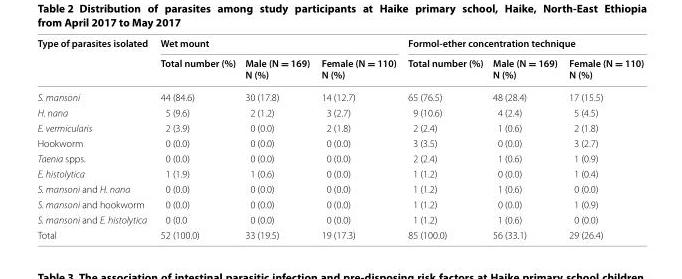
<table><thead><tr><td rowspan="2">Type of parasites isolated</td><td colspan="3">Wet mount</td><td colspan="3">Formol-ether concentration technique</td></tr><tr><td>Total number (%)</td><td>Male (N = 169) N (%)</td><td>Female (N = 110) N (%)</td><td>Total number (%)</td><td>Male (N = 169) N (%)</td><td>Female (N = 110) N (%)</td></tr></thead><tbody><tr><td>S. mansoni</td><td>44 (84.6)</td><td>30 (17.8)</td><td>14 (12.7)</td><td>65 (76.5)</td><td>48 (28.4)</td><td>17 (15.5)</td></tr><tr><td>H. nana</td><td>5 (9.6)</td><td>2 (1.2)</td><td>3 (2.7)</td><td>9 (10.6)</td><td>4 (2.4)</td><td>5 (4.5)</td></tr><tr><td>E. vermicularis</td><td>2 (3.9)</td><td>0 (0.0)</td><td>2 (1.8)</td><td>2 (2.4)</td><td>1 (0.6)</td><td>2 (1.8)</td></tr><tr><td>Hookworm</td><td>0 (0.0)</td><td>0 (0.0)</td><td>0 (0.0)</td><td>3 (3.5)</td><td>0 (0.0)</td><td>3 (2.7)</td></tr><tr><td>Taenia spps.</td><td>0 (0.0)</td><td>0 (0.0)</td><td>0 (0.0)</td><td>2 (2.4)</td><td>1 (0.6)</td><td>1 (0.9)</td></tr><tr><td>E. histolytica</td><td>1 (1.9)</td><td>1 (0.6)</td><td>0 (0.0)</td><td>1 (1.2)</td><td>0 (0.0)</td><td>1 (0.4)</td></tr><tr><td>S. mansoni and H. nana</td><td>0 (0.0)</td><td>0 (0.0)</td><td>0 (0.0)</td><td>1 (1.2)</td><td>1 (0.6)</td><td>0 (0.0)</td></tr><tr><td>S. mansoni and hookworm</td><td>0 (0.0)</td><td>0 (0.0)</td><td>0 (0.0)</td><td>1 (1.2)</td><td>0 (0.0)</td><td>1 (0.9)</td></tr><tr><td>S. mansoni and E. histolytica</td><td>0 (0.0</td><td>0 (0.0)</td><td>0 (0.0)</td><td>1 (1.2)</td><td>1 (0.6)</td><td>0 (0.0)</td></tr><tr><td>Total</td><td>52 (100.0)</td><td>33 (19.5)</td><td>19 (17.3)</td><td>85 (100.0)</td><td>56 (33.1)</td><td>29 (26.4)</td></tr></tbody></table>